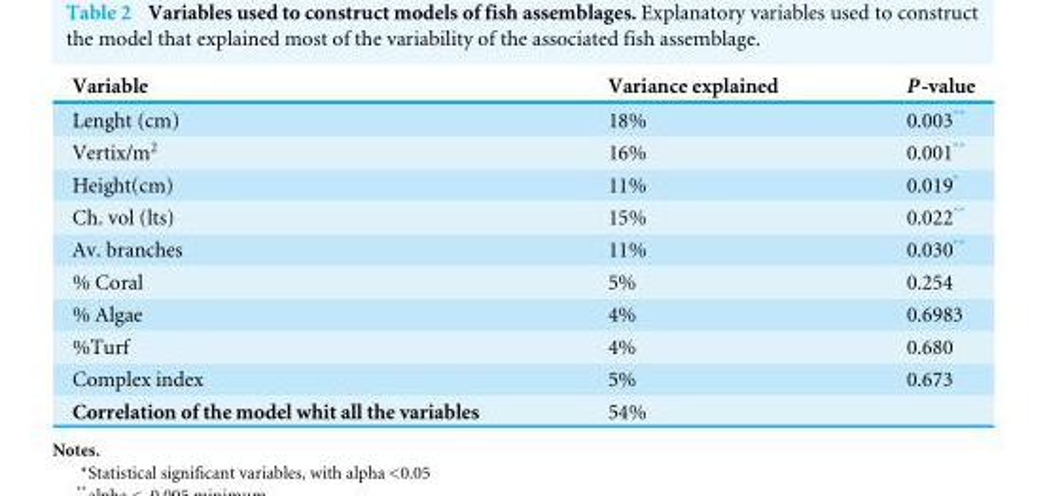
<table><thead><tr><td>Variable</td><td>Variance explained</td><td>P-value</td></tr></thead><tbody><tr><td>Lenght (cm)</td><td>18%</td><td>0.003**</td></tr><tr><td>Vertix/m<sup>2</sup></td><td>16%</td><td>0.001**</td></tr><tr><td>Height(cm)</td><td>11%</td><td>0.019*</td></tr><tr><td>Ch. vol (lts)</td><td>15%</td><td>0.022**</td></tr><tr><td>Av. branches</td><td>11%</td><td>0.030**</td></tr><tr><td>% Coral</td><td>5%</td><td>0.254</td></tr><tr><td>% Algae</td><td>4%</td><td>0.6983</td></tr><tr><td>%Turf</td><td>4%</td><td>0.680</td></tr><tr><td>Complex index</td><td>5%</td><td>0.673</td></tr><tr><td>Correlation of the model whit all the variables</td><td>54%</td><td></td></tr></tbody></table>